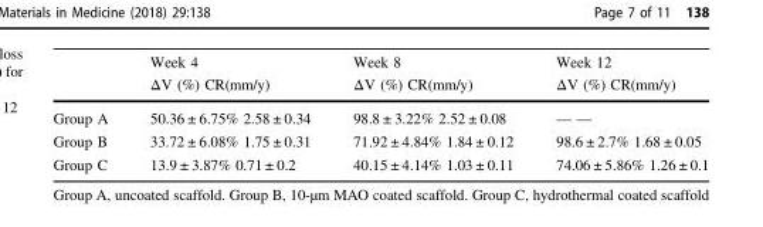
<table><thead><tr><td rowspan="2"></td><td rowspan="2">Week 4 ΔV (%) CR(mm/y)</td><td rowspan="2">Week 8 ΔV (%) CR(mm/y)</td><td rowspan="2">Week 12 ΔV (%) CR(mm/y)</td></tr><tr></tr></thead><tbody><tr><td>Group A</td><td>50.36 ± 6.75% 2.58 ± 0.34</td><td>98.8 ± 3.22% 2.52 ± 0.08</td><td>— —</td></tr><tr><td>Group B</td><td>33.72 ± 6.08% 1.75 ± 0.31</td><td>71.92 ± 4.84% 1.84 ± 0.12</td><td>98.6 ± 2.7% 1.68 ± 0.05</td></tr><tr><td>Group C</td><td>13.9 ± 3.87% 0.71 ± 0.2</td><td>40.15 ± 4.14% 1.03 ± 0.11</td><td>74.06 ± 5.86% 1.26 ± 0.1</td></tr></tbody></table>